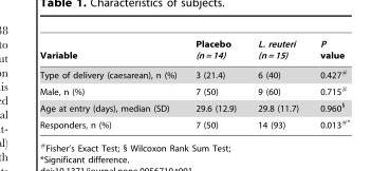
<table><thead><tr><td>Variable</td><td>Placebo (n = 14)</td><td>L. reuteri (n = 15)</td><td>P value</td></tr></thead><tbody><tr><td>Type of delivery (caesarean), n (%)</td><td>3 (21.4)</td><td>6 (40)</td><td>0.427#</td></tr><tr><td>Male, n (%)</td><td>7 (50)</td><td>9 (60)</td><td>0.715#</td></tr><tr><td>Age at entry (days), median (SD)</td><td>29.6 (12.9)</td><td>29.8 (11.7)</td><td>0.960<sup>§</sup></td></tr><tr><td>Responders, n (%)</td><td>7 (50)</td><td>14 (93)</td><td>0.013<sup>#</sup>*</td></tr></tbody></table>